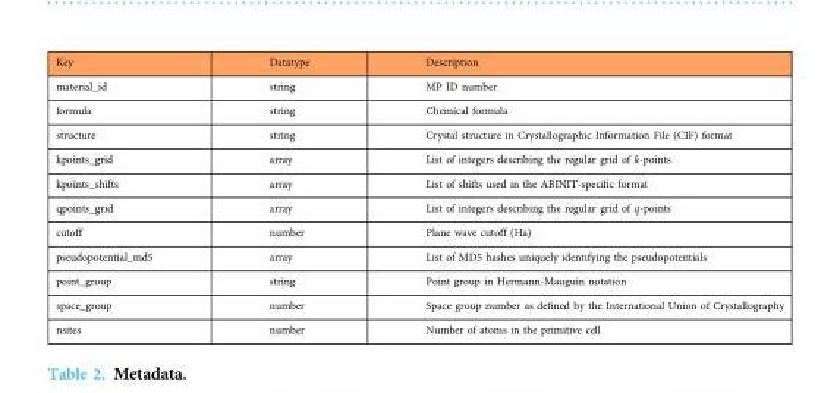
<table><thead><tr><td>Key</td><td>Datatype</td><td>Description</td></tr></thead><tbody><tr><td>material_id</td><td>string</td><td>MP ID number</td></tr><tr><td>formula</td><td>string</td><td>Chemical formula</td></tr><tr><td>structure</td><td>string</td><td>Crystal structure in Crystallographic Information File (CIF) format</td></tr><tr><td>kpoints_grid</td><td>array</td><td>List of integers describing the regular grid of k-points</td></tr><tr><td>kpoints_shifts</td><td>array</td><td>List of shifts used in the ABINIT-specific format</td></tr><tr><td>qpoints_grid</td><td>array</td><td>List of integers describing the regular grid of q-points</td></tr><tr><td>cutoff</td><td>number</td><td>Plane wave cutoff (Ha)</td></tr><tr><td>pseudopotential_md5</td><td>array</td><td>List of MD5 hashes uniquely identifying the pseudopotentials</td></tr><tr><td>point_group</td><td>string</td><td>Point group in Hermann-Mauguin notation</td></tr><tr><td>space_group</td><td>number</td><td>Space group number as defined by the International Union of Crystallography</td></tr><tr><td>nsites</td><td>number</td><td>Number of atoms in the primitive cell</td></tr></tbody></table>